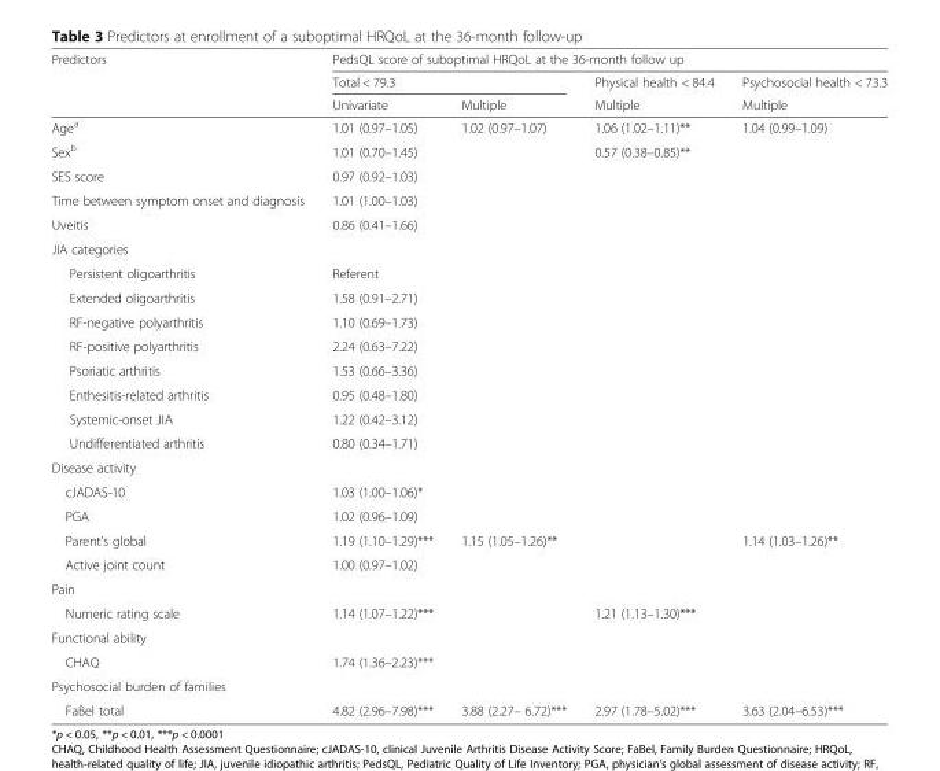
<table><thead><tr><td rowspan="3">Predictors</td><td colspan="4">PedsQL score of suboptimal HRQoL at the 36-month follow up</td></tr><tr><td colspan="2">Total &lt; 79.3</td><td rowspan="2">Physical health &lt; 84.4 Multiple</td><td rowspan="2">Psychosocial health &lt; 73.3 Multiple</td></tr><tr><td>Univariate</td><td>Multiple</td></tr></thead><tbody><tr><td>Age<sup>a</sup></td><td>1.01 (0.97–1.05)</td><td>1.02 (0.97–1.07)</td><td>1.06 (1.02–1.11)**</td><td>1.04 (0.99–1.09)</td></tr><tr><td>Sex<sup>b</sup></td><td>1.01 (0.70–1.45)</td><td></td><td>0.57 (0.38–0.85)**</td><td></td></tr><tr><td>SES score</td><td>0.97 (0.92–1.03)</td><td></td><td></td><td></td></tr><tr><td>Time between symptom onset and diagnosis</td><td>1.01 (1.00–1.03)</td><td></td><td></td><td></td></tr><tr><td>Uveitis</td><td>0.86 (0.41–1.66)</td><td></td><td></td><td></td></tr><tr><td colspan="5">JIA categories</td></tr><tr><td>Persistent oligoarthritis</td><td>Referent</td><td></td><td></td><td></td></tr><tr><td>Extended oligoarthritis</td><td>1.58 (0.91–2.71)</td><td></td><td></td><td></td></tr><tr><td>RF-negative polyarthritis</td><td>1.10 (0.69–1.73)</td><td></td><td></td><td></td></tr><tr><td>RF-positive polyarthritis</td><td>2.24 (0.63–7.22)</td><td></td><td></td><td></td></tr><tr><td>Psoriatic arthritis</td><td>1.53 (0.66–3.36)</td><td></td><td></td><td></td></tr><tr><td>Enthesitis-related arthritis</td><td>0.95 (0.48–1.80)</td><td></td><td></td><td></td></tr><tr><td>Systemic-onset JIA</td><td>1.22 (0.42–3.12)</td><td></td><td></td><td></td></tr><tr><td>Undifferentiated arthritis</td><td>0.80 (0.34–1.71)</td><td></td><td></td><td></td></tr><tr><td colspan="5">Disease activity</td></tr><tr><td>cJADAS-10</td><td>1.03 (1.00–1.06)*</td><td></td><td></td><td></td></tr><tr><td>PGA</td><td>1.02 (0.96–1.09)</td><td></td><td></td><td></td></tr><tr><td>Parent’s global</td><td>1.19 (1.10–1.29)***</td><td>1.15 (1.05–1.26)**</td><td></td><td>1.14 (1.03–1.26)**</td></tr><tr><td>Active joint count</td><td>1.00 (0.97–1.02)</td><td></td><td></td><td></td></tr><tr><td colspan="5">Pain</td></tr><tr><td>Numeric rating scale</td><td>1.14 (1.07–1.22)***</td><td></td><td>1.21 (1.13–1.30)***</td><td></td></tr><tr><td colspan="5">Functional ability</td></tr><tr><td>CHAQ</td><td>1.74 (1.36–2.23)***</td><td></td><td></td><td></td></tr><tr><td colspan="5">Psychosocial burden of families</td></tr><tr><td>FaBel total</td><td>4.82 (2.96–7.98)***</td><td>3.88 (2.27– 6.72)***</td><td>2.97 (1.78–5.02)***</td><td>3.63 (2.04–6.53)***</td></tr></tbody></table>